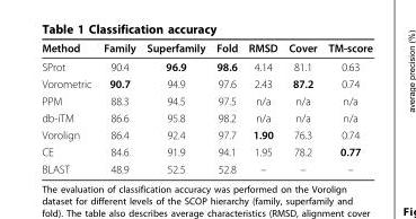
<table><thead><tr><td>Method</td><td>Family</td><td>Superfamily</td><td>Fold</td><td>RMSD</td><td>Cover</td><td>TM-score</td></tr></thead><tbody><tr><td>SProt</td><td>90.4</td><td>96.9</td><td>98.6</td><td>4.14</td><td>81.1</td><td>0.63</td></tr><tr><td>Vorometric</td><td>90.7</td><td>94.9</td><td>97.6</td><td>2.43</td><td>87.2</td><td>0.74</td></tr><tr><td>PPM</td><td>88.3</td><td>94.5</td><td>97.5</td><td>n/a</td><td>n/a</td><td>n/a</td></tr><tr><td>db-iTM</td><td>86.6</td><td>95.8</td><td>98.2</td><td>n/a</td><td>n/a</td><td>n/a</td></tr><tr><td>Vorolign</td><td>86.4</td><td>92.4</td><td>97.7</td><td>1.90</td><td>76.3</td><td>0.74</td></tr><tr><td>CE</td><td>84.6</td><td>91.9</td><td>94.1</td><td>1.95</td><td>78.2</td><td>0.77</td></tr><tr><td>BLAST</td><td>48.9</td><td>52.5</td><td>52.8</td><td>–</td><td>–</td><td>–</td></tr></tbody></table>